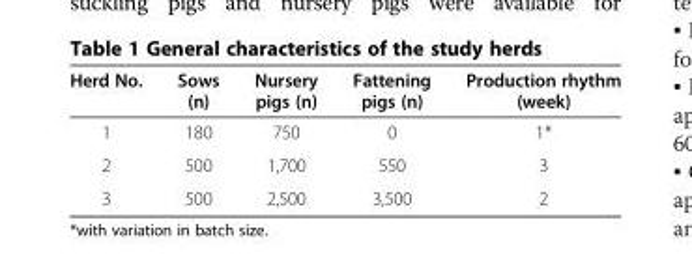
<table><thead><tr><td>Herd No.</td><td>Sows (n)</td><td>Nursery pigs (n)</td><td>Fattening pigs (n)</td><td>Production rhythm (week)</td></tr></thead><tbody><tr><td>1</td><td>180</td><td>750</td><td>0</td><td>1*</td></tr><tr><td>2</td><td>500</td><td>1,700</td><td>550</td><td>3</td></tr><tr><td>3</td><td>500</td><td>2,500</td><td>3,500</td><td>2</td></tr></tbody></table>